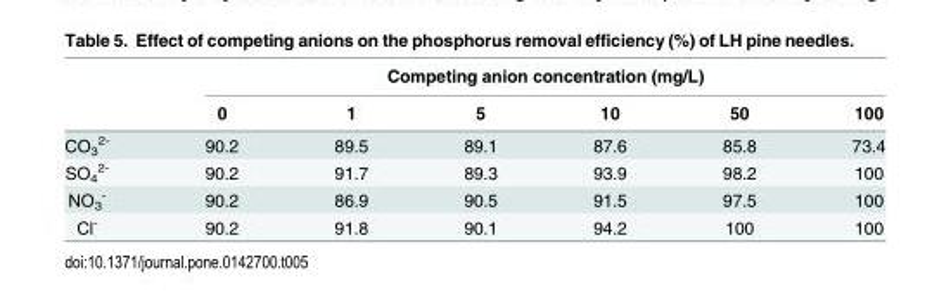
<table><thead><tr><td rowspan="2"></td><td colspan="6">Competing anion concentration (mg/L)</td></tr><tr><td>0</td><td>1</td><td>5</td><td>10</td><td>50</td><td>100</td></tr></thead><tbody><tr><td>CO<sub>3</sub> <sup>2-</sup></td><td>90.2</td><td>89.5</td><td>89.1</td><td>87.6</td><td>85.8</td><td>73.4</td></tr><tr><td>SO<sub>4</sub> <sup>2-</sup></td><td>90.2</td><td>91.7</td><td>89.3</td><td>93.9</td><td>98.2</td><td>100</td></tr><tr><td>NO<sub>3</sub> <sup>-</sup></td><td>90.2</td><td>86.9</td><td>90.5</td><td>91.5</td><td>97.5</td><td>100</td></tr><tr><td>Cl<sup>-</sup></td><td>90.2</td><td>91.8</td><td>90.1</td><td>94.2</td><td>100</td><td>100</td></tr></tbody></table>